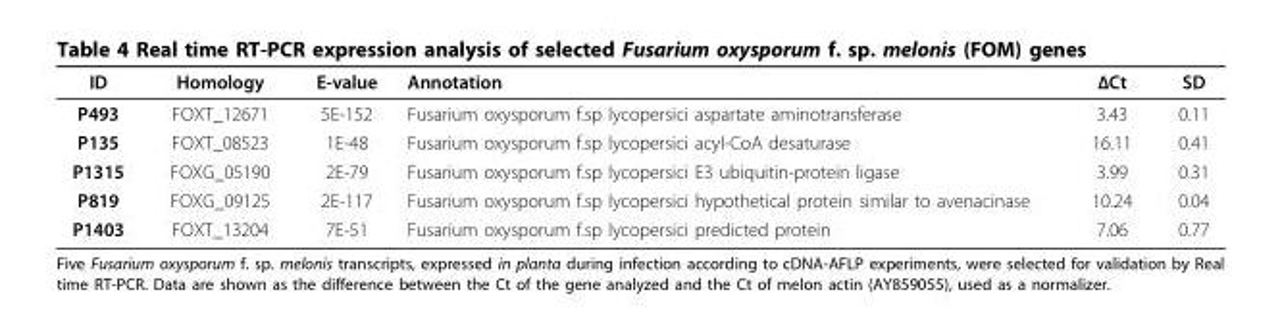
<table><thead><tr><td>ID</td><td>Homology</td><td>E-value</td><td>Annotation</td><td>ΔCt</td><td>SD</td></tr></thead><tbody><tr><td>P493</td><td>FOXT_12671</td><td>5E-152</td><td>Fusarium oxysporum f.sp lycopersici aspartate aminotransferase</td><td>3.43</td><td>0.11</td></tr><tr><td>P135</td><td>FOXT_08523</td><td>1E-48</td><td>Fusarium oxysporum f.sp lycopersici acyl-CoA desaturase</td><td>16.11</td><td>0.41</td></tr><tr><td>P1315</td><td>FOXG_05190</td><td>2E-79</td><td>Fusarium oxysporum f.sp lycopersici E3 ubiquitin-protein ligase</td><td>3.99</td><td>0.31</td></tr><tr><td>P819</td><td>FOXG_09125</td><td>2E-117</td><td>Fusarium oxysporum f.sp lycopersici hypothetical protein similar to avenacinase</td><td>10.24</td><td>0.04</td></tr><tr><td>P1403</td><td>FOXT_13204</td><td>7E-51</td><td>Fusarium oxysporum f.sp lycopersici predicted protein</td><td>7.06</td><td>0.77</td></tr></tbody></table>